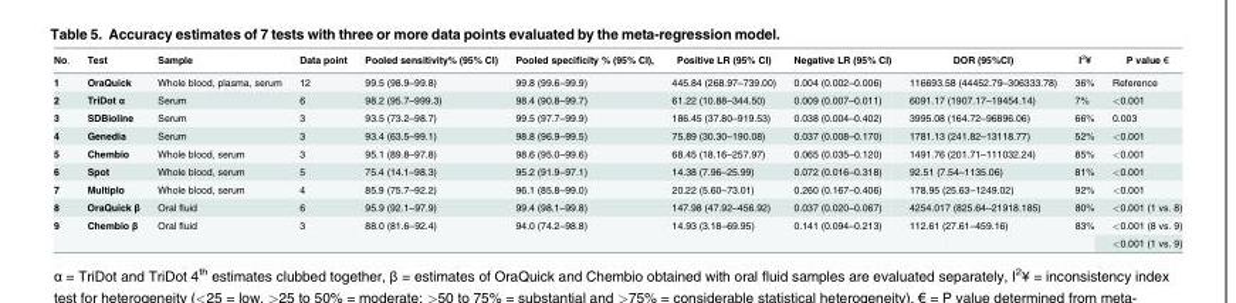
<table><thead><tr><td>No.</td><td>Test</td><td>Sample</td><td>Data point</td><td>Pooled sensitivity% (95% CI)</td><td>Pooled specificity % (95% CI),</td><td>Positive LR (95% CI)</td><td>Negative LR (95% CI)</td><td>DOR (95%CI)</td><td>I<sup>2</sup>¥</td><td>P value €</td></tr></thead><tbody><tr><td>1</td><td>OraQuick</td><td>Whole blood, plasma, serum</td><td>12</td><td>99.5 (98.9–99.8)</td><td>99.8 (99.6–99.9)</td><td>445.84 (268.97–739.00)</td><td>0.004 (0.002–0.006)</td><td>116693.58 (44452.79–306333.78)</td><td>36%</td><td>Reference</td></tr><tr><td>2</td><td>TriDot α</td><td>Serum</td><td>6</td><td>98.2 (95.7–999.3)</td><td>98.4 (90.8–99.7)</td><td>61.22 (10.88–344.50)</td><td>0.009 (0.007–0.011)</td><td>6091.17 (1907.17–19454.14)</td><td>7%</td><td>&lt;0.001</td></tr><tr><td>3</td><td>SDBioline</td><td>Serum</td><td>3</td><td>93.5 (73.2–98.7)</td><td>99.5 (97.7–99.9)</td><td>186.45 (37.80–919.53)</td><td>0.038 (0.004–0.402)</td><td>3995.08 (164.72–96896.06)</td><td>66%</td><td>0.003</td></tr><tr><td>4</td><td>Genedia</td><td>Serum</td><td>3</td><td>93.4 (63.5–99.1)</td><td>98.8 (96.9–99.5)</td><td>75.89 (30.30–190.08)</td><td>0.037 (0.008–0.170)</td><td>1781.13 (241.82–13118.77)</td><td>52%</td><td>&lt;0.001</td></tr><tr><td>5</td><td>Chembio</td><td>Whole blood, serum</td><td>3</td><td>95.1 (89.8–97.8)</td><td>98.6 (95.0–99.6)</td><td>68.45 (18.16–257.97)</td><td>0.065 (0.035–0.120)</td><td>1491.76 (201.71–111032.24)</td><td>85%</td><td>&lt;0.001</td></tr><tr><td>6</td><td>Spot</td><td>Whole blood, serum</td><td>5</td><td>75.4 (14.1–98.3)</td><td>95.2 (91.9–97.1)</td><td>14.38 (7.96–25.99)</td><td>0.072 (0.016–0.318)</td><td>92.51 (7.54–1135.06)</td><td>81%</td><td>&lt;0.001</td></tr><tr><td>7</td><td>Multiplo</td><td>Whole blood, serum</td><td>4</td><td>85.9 (75.7–92.2)</td><td>96.1 (85.8–99.0)</td><td>20.22 (5.60–73.01)</td><td>0.260 (0.167–0.406)</td><td>178.95 (25.63–1249.02)</td><td>92%</td><td>&lt;0.001</td></tr><tr><td>8</td><td>OraQuick β</td><td>Oral fluid</td><td>6</td><td>95.9 (92.1–97.9)</td><td>99.4 (98.1–99.8)</td><td>147.98 (47.92–456.92)</td><td>0.037 (0.020–0.067)</td><td>4254.017 (825.64–21918.185)</td><td>80%</td><td>&lt;0.001 (1 vs. 8)</td></tr><tr><td rowspan="2">9</td><td rowspan="2">Chembio β</td><td rowspan="2">Oral fluid</td><td rowspan="2">3</td><td rowspan="2">88.0 (81.6–92.4)</td><td rowspan="2">94.0 (74.2–98.8)</td><td rowspan="2">14.93 (3.18–69.95)</td><td rowspan="2">0.141 (0.094–0.213)</td><td rowspan="2">112.61 (27.61–459.16)</td><td rowspan="2">83%</td><td>&lt;0.001 (8 vs. 9)</td></tr><tr><td>&lt;0.001 (1 vs. 9)</td></tr></tbody></table>